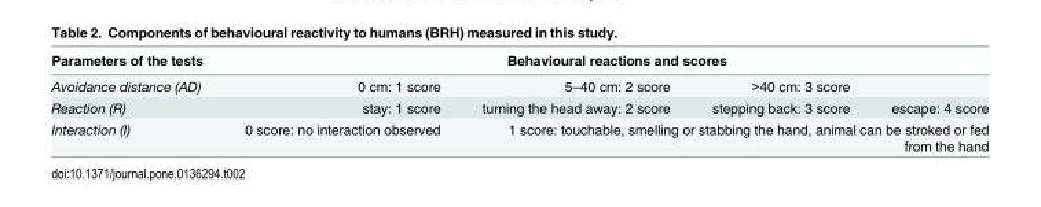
<table><thead><tr><td rowspan="2">Parameters of the tests Avoidance distance (AD)</td><td colspan="4">Behavioural reactions and scores</td></tr><tr><td>0 cm: 1 score</td><td>5–40 cm: 2 score</td><td>&gt;40 cm: 3 score</td><td></td></tr></thead><tbody><tr><td>Reaction (R)</td><td>stay: 1 score</td><td>turning the head away: 2 score</td><td>stepping back: 3 score</td><td>escape: 4 score</td></tr><tr><td>Interaction (I)</td><td>0 score: no interaction observed</td><td colspan="3">1 score: touchable, smelling or stabbing the hand, animal can be stroked or fed from the hand</td></tr></tbody></table>